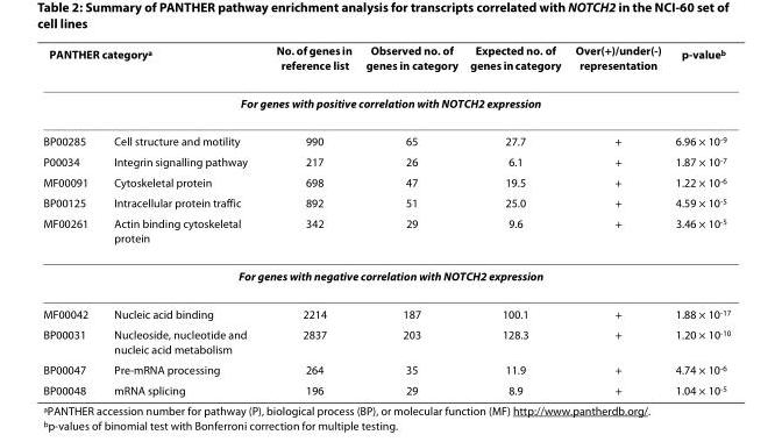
<table><thead><tr><td colspan="2">PANTHER category<sup>a</sup></td><td>No. of genes in reference list</td><td>Observed no. of genes in category</td><td>Expected no. of genes in category</td><td>Over(+)/under(-) representation</td><td>p-value<sup>b</sup></td></tr><tr><td colspan="7">For genes with positive correlation with NOTCH2 expression</td></tr><tr><td>BP00285</td><td>Cell structure and motility</td><td>990</td><td>65</td><td>27.7</td><td>+</td><td>6.96 × 10<sup>-9</sup></td></tr></thead><tbody><tr><td>P00034</td><td>Integrin signalling pathway</td><td>217</td><td>26</td><td>6.1</td><td>+</td><td>1.87 × 10<sup>-7</sup></td></tr><tr><td>MF00091</td><td>Cytoskeletal protein</td><td>698</td><td>47</td><td>19.5</td><td>+</td><td>1.22 × 10<sup>-6</sup></td></tr><tr><td>BP00125</td><td>Intracellular protein traffic</td><td>892</td><td>51</td><td>25.0</td><td>+</td><td>4.59 × 10<sup>-5</sup></td></tr><tr><td>MF00261</td><td>Actin binding cytoskeletal protein</td><td>342</td><td>29</td><td>9.6</td><td>+</td><td>3.46 × 10<sup>-5</sup></td></tr><tr><td colspan="7">For genes with negative correlation with NOTCH2 expression</td></tr><tr><td>MF00042</td><td>Nucleic acid binding</td><td>2214</td><td>187</td><td>100.1</td><td>+</td><td>1.88 × 10<sup>-17</sup></td></tr><tr><td>BP00031</td><td>Nucleoside, nucleotide and nucleic acid metabolism</td><td>2837</td><td>203</td><td>128.3</td><td>+</td><td>1.20 × 10<sup>-10</sup></td></tr><tr><td>BP00047</td><td>Pre-mRNA processing</td><td>264</td><td>35</td><td>11.9</td><td>+</td><td>4.74 × 10<sup>-6</sup></td></tr><tr><td>BP00048</td><td>mRNA splicing</td><td>196</td><td>29</td><td>8.9</td><td>+</td><td>1.04 × 10<sup>-5</sup></td></tr></tbody></table>